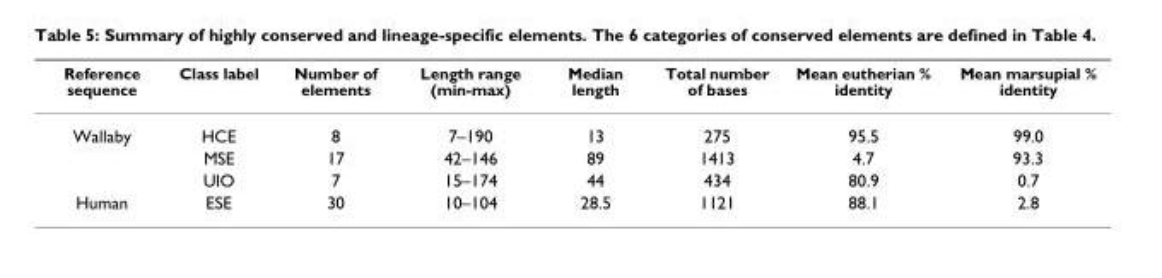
<table><thead><tr><td>Reference sequence</td><td>Class label</td><td>Number of elements</td><td>Length range (min-max)</td><td>Median length</td><td>Total number of bases</td><td>Mean eutherian % identity</td><td>Mean marsupial % identity</td></tr></thead><tbody><tr><td rowspan="3">Wallaby</td><td>HCE</td><td>8</td><td>7–190</td><td>13</td><td>275</td><td>95.5</td><td>99.0</td></tr><tr><td>MSE</td><td>17</td><td>42–146</td><td>89</td><td>1413</td><td>4.7</td><td>93.3</td></tr><tr><td>UIO</td><td>7</td><td>15–174</td><td>44</td><td>434</td><td>80.9</td><td>0.7</td></tr><tr><td>Human</td><td>ESE</td><td>30</td><td>10–104</td><td>28.5</td><td>1121</td><td>88.1</td><td>2.8</td></tr></tbody></table>